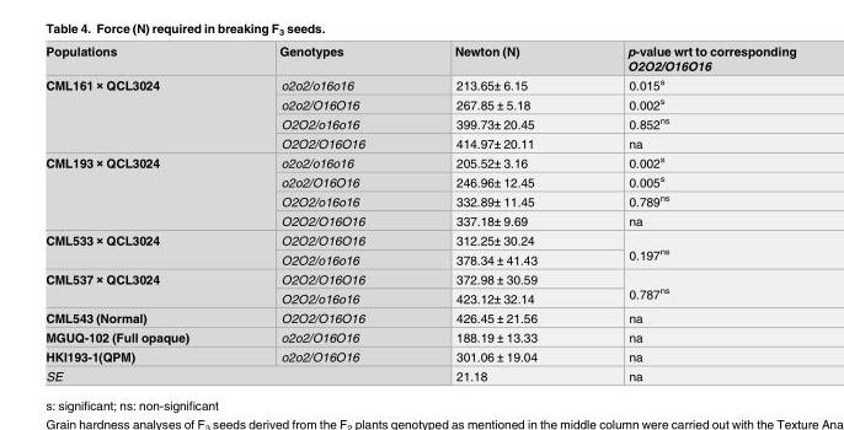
<table><thead><tr><td>Populations</td><td>Genotypes</td><td>Newton (N)</td><td>p-value wrt to corresponding O2O2/O16O16</td></tr></thead><tbody><tr><td rowspan="4">CML161 × QCL3024</td><td>o2o2/o16o16</td><td>213.65± 6.15</td><td>0.015<sup>s</sup></td></tr><tr><td>o2o2/O16O16</td><td>267.85 ± 5.18</td><td>0.002<sup>s</sup></td></tr><tr><td>O2O2/o16o16</td><td>399.73± 20.45</td><td>0.852<sup>ns</sup></td></tr><tr><td>O2O2/O16O16</td><td>414.97± 20.11</td><td>na</td></tr><tr><td rowspan="4">CML193 × QCL3024</td><td>o2o2/o16o16</td><td>205.52± 3.16</td><td>0.002<sup>s</sup></td></tr><tr><td>o2o2/O16O16</td><td>246.96± 12.45</td><td>0.005<sup>s</sup></td></tr><tr><td>O2O2/o16o16</td><td>332.89± 11.45</td><td>0.789<sup>ns</sup></td></tr><tr><td>O2O2/O16O16</td><td>337.18± 9.69</td><td>na</td></tr><tr><td rowspan="2">CML533 × QCL3024</td><td>O2O2/O16O16</td><td>312.25± 30.24</td><td rowspan="2">0.197<sup>ns</sup></td></tr><tr><td>O2O2/o16o16</td><td>378.34 ± 41.43</td></tr><tr><td rowspan="2">CML537 × QCL3024</td><td>O2O2/O16O16</td><td>372.98 ± 30.59</td><td rowspan="2">0.787<sup>ns</sup></td></tr><tr><td>O2O2/o16o16</td><td>423.12± 32.14</td></tr><tr><td>CML543 (Normal)</td><td>O2O2/O16O16</td><td>426.45 ± 21.56</td><td>na</td></tr><tr><td>MGUQ-102 (Full opaque)</td><td>o2o2/O16O16</td><td>188.19 ± 13.33</td><td>na</td></tr><tr><td>HKI193-1(QPM)</td><td>o2o2/O16O16</td><td>301.06 ± 19.04</td><td>na</td></tr><tr><td colspan="2">SE</td><td>21.18</td><td>na</td></tr></tbody></table>